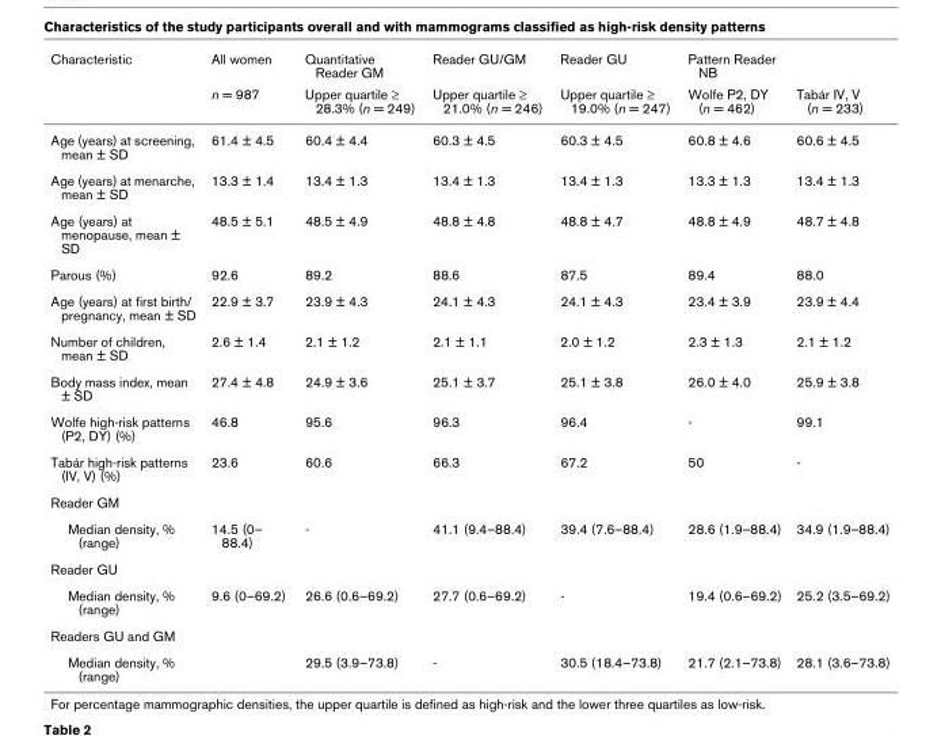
<table><thead><tr><td rowspan="2">Characteristic</td><td rowspan="2">All women n = 987</td><td rowspan="2">Quantitative Reader GM Upper quartile ≥ 28.3% (n = 249)</td><td rowspan="2">Reader GU/GM Upper quartile ≥ 21.0% (n = 246)</td><td rowspan="2">Reader GU Upper quartile ≥ 19.0% (n = 247)</td><td rowspan="2">Pattern Reader NB Wolfe P2, DY (n = 462)</td><td rowspan="2">Tabár IV, V (n = 233)</td></tr><tr></tr></thead><tbody><tr><td>Age (years) at screening, mean ± SD</td><td>61.4 ± 4.5</td><td>60.4 ± 4.4</td><td>60.3 ± 4.5</td><td>60.3 ± 4.5</td><td>60.8 ± 4.6</td><td>60.6 ± 4.5</td></tr><tr><td>Age (years) at menarche, mean ± SD</td><td>13.3 ± 1.4</td><td>13.4 ± 1.3</td><td>13.4 ± 1.3</td><td>13.4 ± 1.3</td><td>13.3 ± 1.3</td><td>13.4 ± 1.3</td></tr><tr><td>Age (years) at menopause, mean ± SD</td><td>48.5 ± 5.1</td><td>48.5 ± 4.9</td><td>48.8 ± 4.8</td><td>48.8 ± 4.7</td><td>48.8 ± 4.9</td><td>48.7 ± 4.8</td></tr><tr><td>Parous (%)</td><td>92.6</td><td>89.2</td><td>88.6</td><td>87.5</td><td>89.4</td><td>88.0</td></tr><tr><td>Age (years) at first birth/ pregnancy, mean ± SD</td><td>22.9 ± 3.7</td><td>23.9 ± 4.3</td><td>24.1 ± 4.3</td><td>24.1 ± 4.3</td><td>23.4 ± 3.9</td><td>23.9 ± 4.4</td></tr><tr><td>Number of children, mean ± SD</td><td>2.6 ± 1.4</td><td>2.1 ± 1.2</td><td>2.1 ± 1.1</td><td>2.0 ± 1.2</td><td>2.3 ± 1.3</td><td>2.1 ± 1.2</td></tr><tr><td>Body mass index, mean ± SD</td><td>27.4 ± 4.8</td><td>24.9 ± 3.6</td><td>25.1 ± 3.7</td><td>25.1 ± 3.8</td><td>26.0 ± 4.0</td><td>25.9 ± 3.8</td></tr><tr><td>Wolfe high-risk patterns (P2, DY) (%)</td><td>46.8</td><td>95.6</td><td>96.3</td><td>96.4</td><td>-</td><td>99.1</td></tr><tr><td>Tabár high-risk patterns (IV, V) (%)</td><td>23.6</td><td>60.6</td><td>66.3</td><td>67.2</td><td>50</td><td>-</td></tr><tr><td colspan="7">Reader GM</td></tr><tr><td>Median density, % (range)</td><td>14.5 (0– 88.4)</td><td>-</td><td>41.1 (9.4–88.4)</td><td>39.4 (7.6–88.4)</td><td>28.6 (1.9–88.4)</td><td>34.9 (1.9–88.4)</td></tr><tr><td colspan="7">Reader GU</td></tr><tr><td>Median density, % (range)</td><td>9.6 (0–69.2)</td><td>26.6 (0.6–69.2)</td><td>27.7 (0.6–69.2)</td><td>-</td><td>19.4 (0.6–69.2)</td><td>25.2 (3.5–69.2)</td></tr><tr><td colspan="7">Readers GU and GM</td></tr><tr><td>Median density, % (range)</td><td></td><td>29.5 (3.9–73.8)</td><td>-</td><td>30.5 (18.4–73.8)</td><td>21.7 (2.1–73.8)</td><td>28.1 (3.6–73.8)</td></tr></tbody></table>